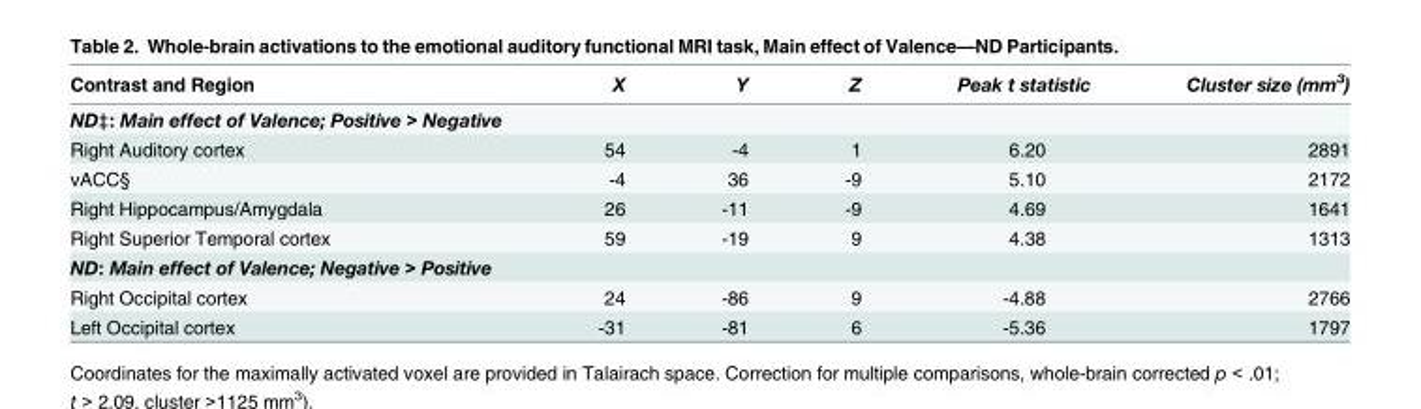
<table><thead><tr><td>Contrast and Region</td><td>X</td><td>Y</td><td>Z</td><td>Peak t statistic</td><td>Cluster size (mm<sup>3</sup>)</td></tr></thead><tbody><tr><td colspan="6">ND‡: Main effect of Valence; Positive &gt; Negative</td></tr><tr><td>Right Auditory cortex</td><td>54</td><td>-4</td><td>1</td><td>6.20</td><td>2891</td></tr><tr><td>vACC§</td><td>-4</td><td>36</td><td>-9</td><td>5.10</td><td>2172</td></tr><tr><td>Right Hippocampus/Amygdala</td><td>26</td><td>-11</td><td>-9</td><td>4.69</td><td>1641</td></tr><tr><td>Right Superior Temporal cortex</td><td>59</td><td>-19</td><td>9</td><td>4.38</td><td>1313</td></tr><tr><td colspan="6">ND: Main effect of Valence; Negative &gt; Positive</td></tr><tr><td>Right Occipital cortex</td><td>24</td><td>-86</td><td>9</td><td>-4.88</td><td>2766</td></tr><tr><td>Left Occipital cortex</td><td>-31</td><td>-81</td><td>6</td><td>-5.36</td><td>1797</td></tr></tbody></table>